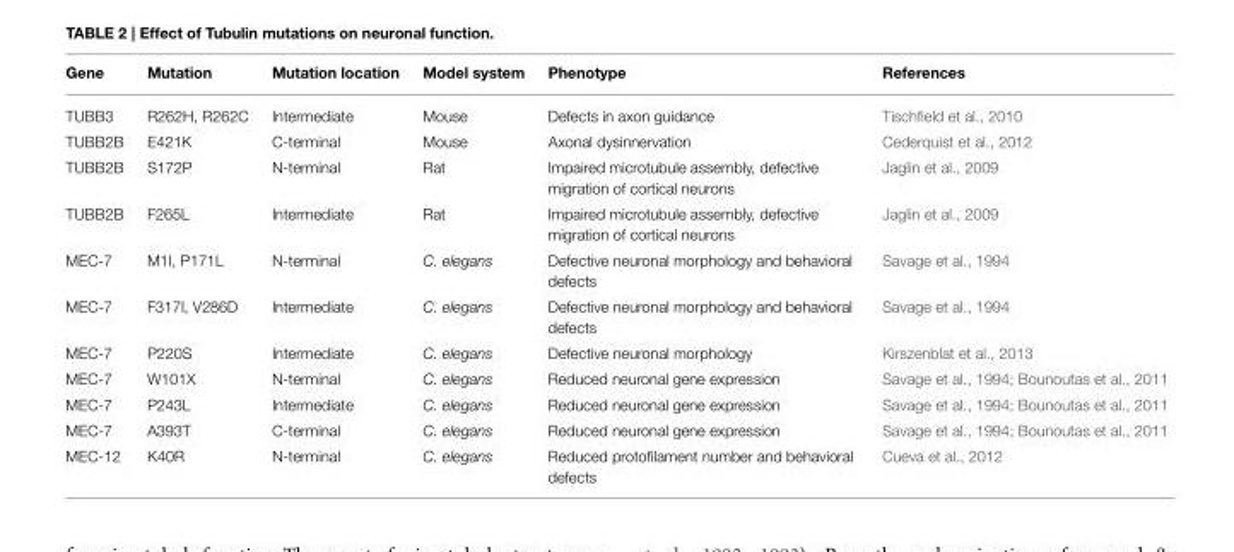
<table><thead><tr><td>Gene</td><td>Mutation</td><td>Mutation location</td><td>Model system</td><td>Phenotype</td><td>References</td></tr></thead><tbody><tr><td>TUBB3</td><td>R262H, R262C</td><td>Intermediate</td><td>Mouse</td><td>Defects in axon guidance</td><td>Tischfield et al., 2010</td></tr><tr><td>TUBB2B</td><td>E421K</td><td>C-terminal</td><td>Mouse</td><td>Axonal dysinnervation</td><td>Cederquist et al., 2012</td></tr><tr><td>TUBB2B</td><td>S172P</td><td>N-terminal</td><td>Rat</td><td>Impaired microtubule assembly, defective migration of cortical neurons</td><td>Jaglin et al., 2009</td></tr><tr><td>TUBB2B</td><td>F265L</td><td>Intermediate</td><td>Rat</td><td>Impaired microtubule assembly, defective migration of cortical neurons</td><td>Jaglin et al., 2009</td></tr><tr><td>MEC-7</td><td>M1I, P171L</td><td>N-terminal</td><td>C. elegans</td><td>Defective neuronal morphology and behavioral defects</td><td>Savage et al., 1994</td></tr><tr><td>MEC-7</td><td>F317I, V286D</td><td>Intermediate</td><td>C. elegans</td><td>Defective neuronal morphology and behavioral defects</td><td>Savage et al., 1994</td></tr><tr><td>MEC-7</td><td>P220S</td><td>Intermediate</td><td>C. elegans</td><td>Defective neuronal morphology</td><td>Kirszenblat et al., 2013</td></tr><tr><td>MEC-7</td><td>W101X</td><td>N-terminal</td><td>C. elegans</td><td>Reduced neuronal gene expression</td><td>Savage et al., 1994; Bounoutas et al., 2011</td></tr><tr><td>MEC-7</td><td>P243L</td><td>Intermediate</td><td>C. elegans</td><td>Reduced neuronal gene expression</td><td>Savage et al., 1994; Bounoutas et al., 2011</td></tr><tr><td>MEC-7</td><td>A393T</td><td>C-terminal</td><td>C. elegans</td><td>Reduced neuronal gene expression</td><td>Savage et al., 1994; Bounoutas et al., 2011</td></tr><tr><td>MEC-12</td><td>K40R</td><td>N-terminal</td><td>C. elegans</td><td>Reduced protofilament number and behavioral defects</td><td>Cueva et al., 2012</td></tr></tbody></table>